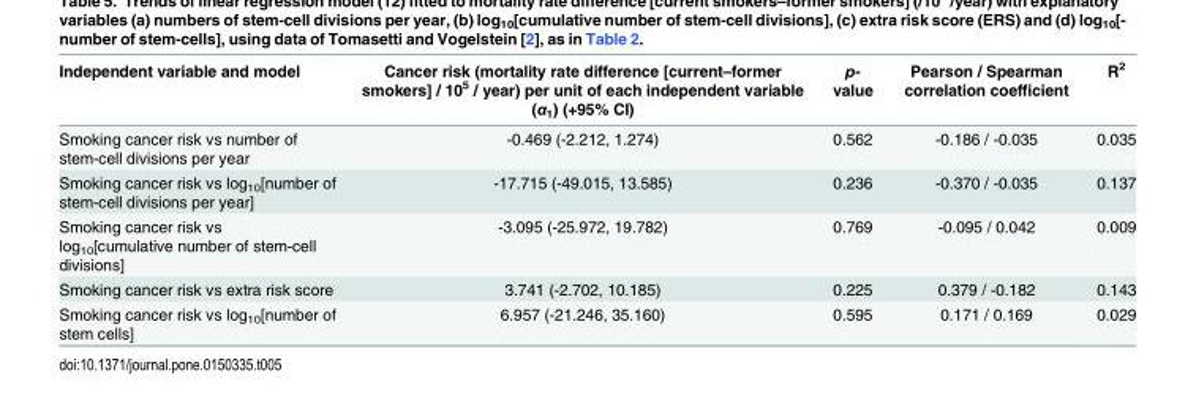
<table><thead><tr><td>Independent variable and model</td><td>Cancer risk (mortality rate difference [current–former smokers] / 10<sup>5</sup> / year) per unit of each independent variable (α<sub>1</sub>) (+95% CI)</td><td>p- value</td><td>Pearson / Spearman correlation coefficient</td><td>R<sup>2</sup></td></tr></thead><tbody><tr><td>Smoking cancer risk vs number of stem-cell divisions per year</td><td>-0.469 (-2.212, 1.274)</td><td>0.562</td><td>-0.186 / -0.035</td><td>0.035</td></tr><tr><td>Smoking cancer risk vs log<sub>10</sub>[number of stem-cell divisions per year]</td><td>-17.715 (-49.015, 13.585)</td><td>0.236</td><td>-0.370 / -0.035</td><td>0.137</td></tr><tr><td>Smoking cancer risk vs log<sub>10</sub>[cumulative number of stem-cell divisions]</td><td>-3.095 (-25.972, 19.782)</td><td>0.769</td><td>-0.095 / 0.042</td><td>0.009</td></tr><tr><td>Smoking cancer risk vs extra risk score</td><td>3.741 (-2.702, 10.185)</td><td>0.225</td><td>0.379 / -0.182</td><td>0.143</td></tr><tr><td>Smoking cancer risk vs log<sub>10</sub>[number of stem cells]</td><td>6.957 (-21.246, 35.160)</td><td>0.595</td><td>0.171 / 0.169</td><td>0.029</td></tr></tbody></table>